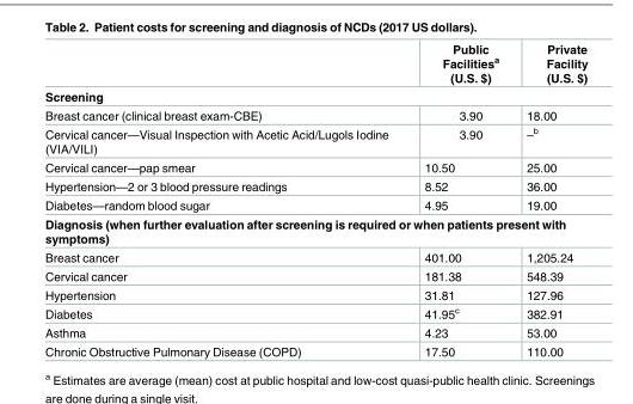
<table><thead><tr><td></td><td>Public Facilities<sup>a</sup> (U.S. $)</td><td>Private Facility (U.S. $)</td></tr></thead><tbody><tr><td colspan="3">Screening</td></tr><tr><td>Breast cancer (clinical breast exam-CBE)</td><td>3.90</td><td>18.00</td></tr><tr><td>Cervical cancer—Visual Inspection with Acetic Acid/Lugols Iodine (VIA/VILI)</td><td>3.90</td><td>–<sup>b</sup></td></tr><tr><td>Cervical cancer—pap smear</td><td>10.50</td><td>25.00</td></tr><tr><td>Hypertension—2 or 3 blood pressure readings</td><td>8.52</td><td>36.00</td></tr><tr><td>Diabetes—random blood sugar</td><td>4.95</td><td>19.00</td></tr><tr><td colspan="3">Diagnosis (when further evaluation after screening is required or when patients present with symptoms)</td></tr><tr><td>Breast cancer</td><td>401.00</td><td>1,205.24</td></tr><tr><td>Cervical cancer</td><td>181.38</td><td>548.39</td></tr><tr><td>Hypertension</td><td>31.81</td><td>127.96</td></tr><tr><td>Diabetes</td><td>41.95<sup>c</sup></td><td>382.91</td></tr><tr><td>Asthma</td><td>4.23</td><td>53.00</td></tr><tr><td>Chronic Obstructive Pulmonary Disease (COPD)</td><td>17.50</td><td>110.00</td></tr></tbody></table>